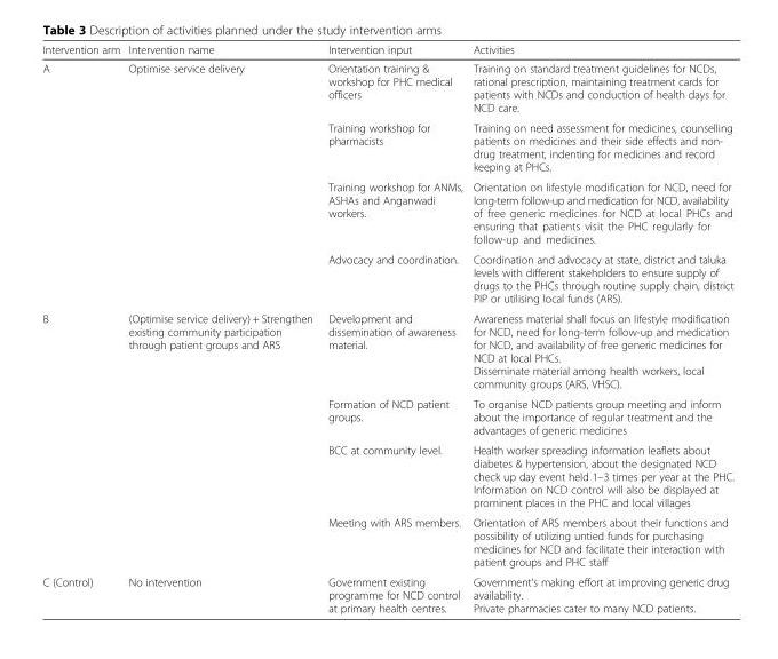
<table><thead><tr><td>Intervention arm</td><td>Intervention name</td><td>Intervention input</td><td>Activities</td></tr></thead><tbody><tr><td rowspan="4">A</td><td rowspan="4">Optimise service delivery</td><td>Orientation training &amp; workshop for PHC medical officers</td><td>Training on standard treatment guidelines for NCDs, rational prescription, maintaining treatment cards for patients with NCDs and conduction of health days for NCD care.</td></tr><tr><td>Training workshop for pharmacists</td><td>Training on need assessment for medicines, counselling patients on medicines and their side effects and non- drug treatment, indenting for medicines and record keeping at PHCs.</td></tr><tr><td>Training workshop for ANMs, ASHAs and Anganwadi workers.</td><td>Orientation on lifestyle modification for NCD, need for long-term follow-up and medication for NCD, availability of free generic medicines for NCD at local PHCs and ensuring that patients visit the PHC regularly for follow-up and medicines.</td></tr><tr><td>Advocacy and coordination.</td><td>Coordination and advocacy at state, district and taluka levels with different stakeholders to ensure supply of drugs to the PHCs through routine supply chain, district PIP or utilising local funds (ARS).</td></tr><tr><td rowspan="4">B</td><td rowspan="4">(Optimise service delivery) + Strengthen existing community participation through patient groups and ARS</td><td>Development and dissemination of awareness material.</td><td>Awareness material shall focus on lifestyle modification for NCD, need for long-term follow-up and medication for NCD, and availability of free generic medicines for NCD at local PHCs. Disseminate material among health workers, local community groups (ARS, VHSC).</td></tr><tr><td>Formation of NCD patient groups.</td><td>To organise NCD patients group meeting and inform about the importance of regular treatment and the advantages of generic medicines</td></tr><tr><td>BCC at community level.</td><td>Health worker spreading information leaflets about diabetes &amp; hypertension, about the designated NCD check up day event held 1–3 times per year at the PHC. Information on NCD control will also be displayed at prominent places in the PHC and local villages</td></tr><tr><td>Meeting with ARS members.</td><td>Orientation of ARS members about their functions and possibility of utilizing untied funds for purchasing medicines for NCD and facilitate their interaction with patient groups and PHC staff</td></tr><tr><td>C (Control)</td><td>No intervention</td><td>Government existing programme for NCD control at primary health centres.</td><td>Government’s making effort at improving generic drug availability. Private pharmacies cater to many NCD patients.</td></tr></tbody></table>